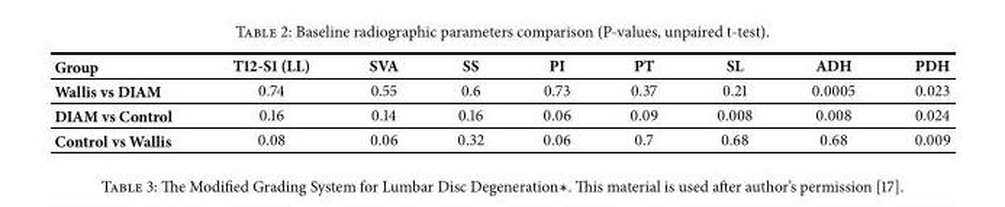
<table><tbody><tr><td>Group</td><td>T12-S1 (LL)</td><td>SVA</td><td>SS</td><td>PI</td><td>PT</td><td>SL</td><td>ADH</td><td>PDH</td></tr><tr><td>Wallis vs DIAM</td><td>0.74</td><td>0.55</td><td>0.6</td><td>0.73</td><td>0.37</td><td>0.21</td><td>0.0005</td><td>0.023</td></tr><tr><td>DIAM vs Control</td><td>0.16</td><td>0.14</td><td>0.16</td><td>0.06</td><td>0.09</td><td>0.008</td><td>0.008</td><td>0.024</td></tr><tr><td>Control vs Wallis</td><td>0.08</td><td>0.06</td><td>0.32</td><td>0.06</td><td>0.7</td><td>0.68</td><td>0.68</td><td>0.009</td></tr></tbody></table>